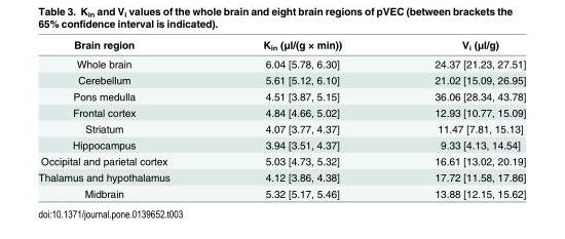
<table><thead><tr><td>Brain region</td><td>K<sub>in</sub> (μl/(g × min))</td><td>V<sub>i</sub> (μl/g)</td></tr></thead><tbody><tr><td>Whole brain</td><td>6.04 [5.78, 6.30]</td><td>24.37 [21.23, 27.51]</td></tr><tr><td>Cerebellum</td><td>5.61 [5.12, 6.10]</td><td>21.02 [15.09, 26.95]</td></tr><tr><td>Pons medulla</td><td>4.51 [3.87, 5.15]</td><td>36.06 [28.34, 43.78]</td></tr><tr><td>Frontal cortex</td><td>4.84 [4.66, 5.02]</td><td>12.93 [10.77, 15.09]</td></tr><tr><td>Striatum</td><td>4.07 [3.77, 4.37]</td><td>11.47 [7.81, 15.13]</td></tr><tr><td>Hippocampus</td><td>3.94 [3.51, 4.37]</td><td>9.33 [4.13, 14.54]</td></tr><tr><td>Occipital and parietal cortex</td><td>5.03 [4.73, 5.32]</td><td>16.61 [13.02, 20.19]</td></tr><tr><td>Thalamus and hypothalamus</td><td>4.12 [3.86, 4.38]</td><td>17.72 [11.58, 17.86]</td></tr><tr><td>Midbrain</td><td>5.32 [5.17, 5.46]</td><td>13.88 [12.15, 15.62]</td></tr></tbody></table>